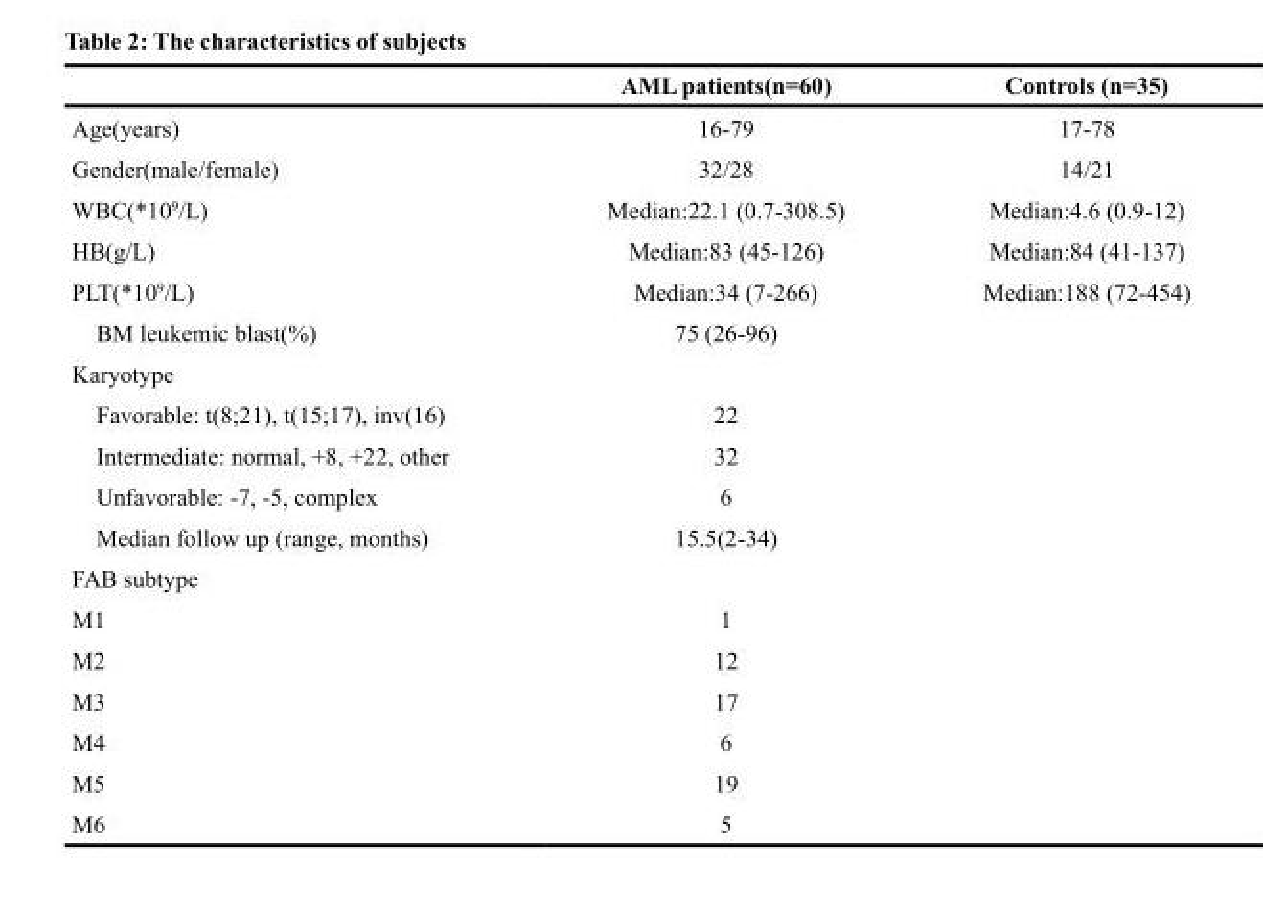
<table><thead><tr><td></td><td>AML patients(n=60)</td><td>Controls (n=35)</td></tr></thead><tbody><tr><td>Age(years)</td><td>16-79</td><td>17-78</td></tr><tr><td>Gender(male/female)</td><td>32/28</td><td>14/21</td></tr><tr><td>WBC(*109/L)</td><td>Median:22.1 (0.7-308.5)</td><td>Median:4.6 (0.9-12)</td></tr><tr><td>HB(g/L)</td><td>Median:83 (45-126)</td><td>Median:84 (41-137)</td></tr><tr><td>PLT(*109/L)</td><td>Median:34 (7-266)</td><td>Median:188 (72-454)</td></tr><tr><td>BM leukemic blast(%)</td><td>75 (26-96)</td><td></td></tr><tr><td colspan="3">Karyotype</td></tr><tr><td>Favorable: t(8;21), t(15;17), inv(16)</td><td>22</td><td></td></tr><tr><td>Intermediate: normal, +8, +22, other</td><td>32</td><td></td></tr><tr><td>Unfavorable: -7, -5, complex</td><td>6</td><td></td></tr><tr><td>Median follow up (range, months)</td><td>15.5(2-34)</td><td></td></tr><tr><td colspan="3">FAB subtype</td></tr><tr><td>M1</td><td>1</td><td></td></tr><tr><td>M2</td><td>12</td><td></td></tr><tr><td>M3</td><td>17</td><td></td></tr><tr><td>M4</td><td>6</td><td></td></tr><tr><td>M5</td><td>19</td><td></td></tr><tr><td>M6</td><td>5</td><td></td></tr></tbody></table>